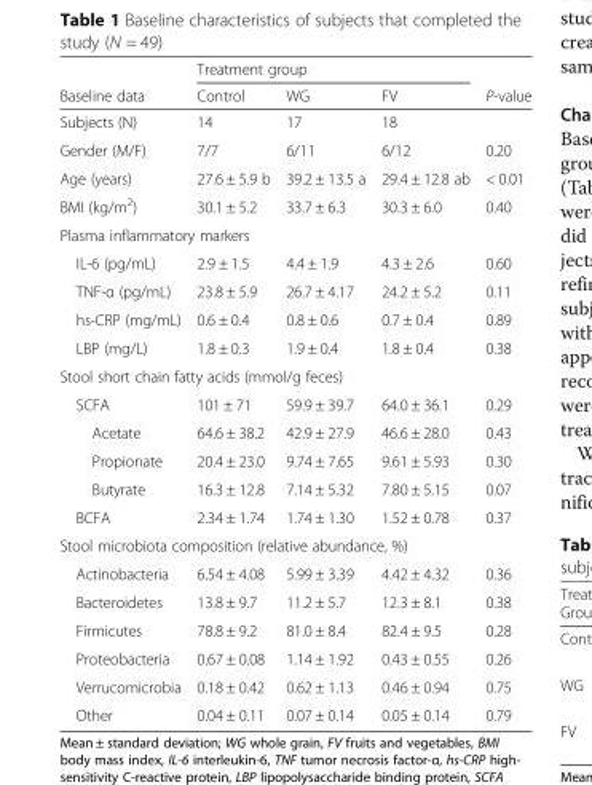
<table><thead><tr><td rowspan="2">Baseline data</td><td colspan="3">Treatment group</td><td rowspan="2">P-value</td></tr><tr><td>Control</td><td>WG</td><td>FV</td></tr></thead><tbody><tr><td>Subjects (N)</td><td>14</td><td>17</td><td>18</td><td></td></tr><tr><td>Gender (M/F)</td><td>7/7</td><td>6/11</td><td>6/12</td><td>0.20</td></tr><tr><td>Age (years)</td><td>27.6 ± 5.9 b</td><td>39.2 ± 13.5 a</td><td>29.4 ± 12.8 ab</td><td>&lt; 0.01</td></tr><tr><td>BMI (kg/m<sup>2</sup>)</td><td>30.1 ± 5.2</td><td>33.7 ± 6.3</td><td>30.3 ± 6.0</td><td>0.40</td></tr><tr><td colspan="5">Plasma inflammatory markers</td></tr><tr><td>IL-6 (pg/mL)</td><td>2.9 ± 1.5</td><td>4.4 ± 1.9</td><td>4.3 ± 2.6</td><td>0.60</td></tr><tr><td>TNF-α (pg/mL)</td><td>23.8 ± 5.9</td><td>26.7 ± 4.17</td><td>24.2 ± 5.2</td><td>0.11</td></tr><tr><td>hs-CRP (mg/mL)</td><td>0.6 ± 0.4</td><td>0.8 ± 0.6</td><td>0.7 ± 0.4</td><td>0.89</td></tr><tr><td>LBP (mg/L)</td><td>1.8 ± 0.3</td><td>1.9 ± 0.4</td><td>1.8 ± 0.4</td><td>0.38</td></tr><tr><td colspan="5">Stool short chain fatty acids (mmol/g feces)</td></tr><tr><td>SCFA</td><td>101 ± 71</td><td>59.9 ± 39.7</td><td>64.0 ± 36.1</td><td>0.29</td></tr><tr><td>Acetate</td><td>64.6 ± 38.2</td><td>42.9 ± 27.9</td><td>46.6 ± 28.0</td><td>0.43</td></tr><tr><td>Propionate</td><td>20.4 ± 23.0</td><td>9.74 ± 7.65</td><td>9.61 ± 5.93</td><td>0.30</td></tr><tr><td>Butyrate</td><td>16.3 ± 12.8</td><td>7.14 ± 5.32</td><td>7.80 ± 5.15</td><td>0.07</td></tr><tr><td>BCFA</td><td>2.34 ± 1.74</td><td>1.74 ± 1.30</td><td>1.52 ± 0.78</td><td>0.37</td></tr><tr><td colspan="5">Stool microbiota composition (relative abundance, %)</td></tr><tr><td>Actinobacteria</td><td>6.54 ± 4.08</td><td>5.99 ± 3.39</td><td>4.42 ± 4.32</td><td>0.36</td></tr><tr><td>Bacteroidetes</td><td>13.8 ± 9.7</td><td>11.2 ± 5.7</td><td>12.3 ± 8.1</td><td>0.38</td></tr><tr><td>Firmicutes</td><td>78.8 ± 9.2</td><td>81.0 ± 8.4</td><td>82.4 ± 9.5</td><td>0.28</td></tr><tr><td>Proteobacteria</td><td>0.67 ± 0.08</td><td>1.14 ± 1.92</td><td>0.43 ± 0.55</td><td>0.26</td></tr><tr><td>Verrucomicrobia</td><td>0.18 ± 0.42</td><td>0.62 ± 1.13</td><td>0.46 ± 0.94</td><td>0.75</td></tr><tr><td>Other</td><td>0.04 ± 0.11</td><td>0.07 ± 0.14</td><td>0.05 ± 0.14</td><td>0.79</td></tr></tbody></table>